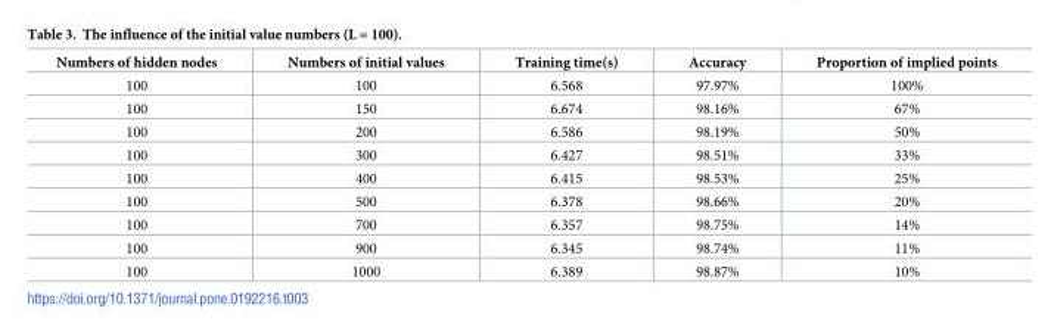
<table><thead><tr><td>Numbers of hidden nodes</td><td>Numbers of initial values</td><td>Training time(s)</td><td>Accuracy</td><td>Proportion of implied points</td></tr></thead><tbody><tr><td>100</td><td>100</td><td>6.568</td><td>97.97%</td><td>100%</td></tr><tr><td>100</td><td>150</td><td>6.674</td><td>98.16%</td><td>67%</td></tr><tr><td>100</td><td>200</td><td>6.586</td><td>98.19%</td><td>50%</td></tr><tr><td>100</td><td>300</td><td>6.427</td><td>98.51%</td><td>33%</td></tr><tr><td>100</td><td>400</td><td>6.415</td><td>98.53%</td><td>25%</td></tr><tr><td>100</td><td>500</td><td>6.378</td><td>98.66%</td><td>20%</td></tr><tr><td>100</td><td>700</td><td>6.357</td><td>98.75%</td><td>14%</td></tr><tr><td>100</td><td>900</td><td>6.345</td><td>98.74%</td><td>11%</td></tr><tr><td>100</td><td>1000</td><td>6.389</td><td>98.87%</td><td>10%</td></tr></tbody></table>